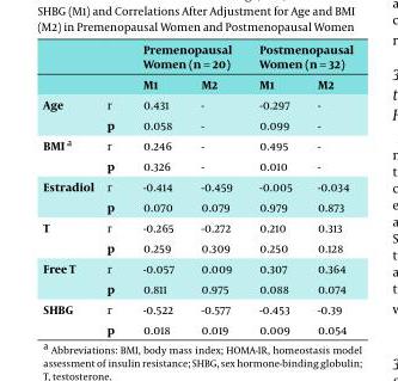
<table><thead><tr><td rowspan="2"></td><td rowspan="2"></td><td colspan="2">Premenopausal Women (n = 20)</td><td colspan="2">Postmenopausal Women (n = 32)</td></tr><tr><td>M1</td><td>M2</td><td>M1</td><td>M2</td></tr></thead><tbody><tr><td rowspan="2">Age</td><td>r</td><td>0.431</td><td>-</td><td>-0.297</td><td>-</td></tr><tr><td>p</td><td>0.058</td><td>-</td><td>0.099</td><td>-</td></tr><tr><td rowspan="2">BMI <sup>a</sup></td><td>r</td><td>0.246</td><td>-</td><td>0.495</td><td>-</td></tr><tr><td>p</td><td>0.326</td><td>-</td><td>0.010</td><td>-</td></tr><tr><td rowspan="2">Estradiol</td><td>r</td><td>-0.414</td><td>-0.459</td><td>-0.005</td><td>-0.034</td></tr><tr><td>p</td><td>0.070</td><td>0.079</td><td>0.979</td><td>0.873</td></tr><tr><td rowspan="2">T</td><td>r</td><td>-0.265</td><td>-0.272</td><td>0.210</td><td>0.313</td></tr><tr><td>p</td><td>0.259</td><td>0.309</td><td>0.250</td><td>0.128</td></tr><tr><td rowspan="2">Free T</td><td>r</td><td>-0.057</td><td>0.009</td><td>0.307</td><td>0.364</td></tr><tr><td>p</td><td>0.811</td><td>0.975</td><td>0.088</td><td>0.074</td></tr><tr><td rowspan="2">SHBG</td><td>r</td><td>-0.522</td><td>-0.577</td><td>-0.453</td><td>-0.39</td></tr><tr><td>p</td><td>0.018</td><td>0.019</td><td>0.009</td><td>0.054</td></tr></tbody></table>